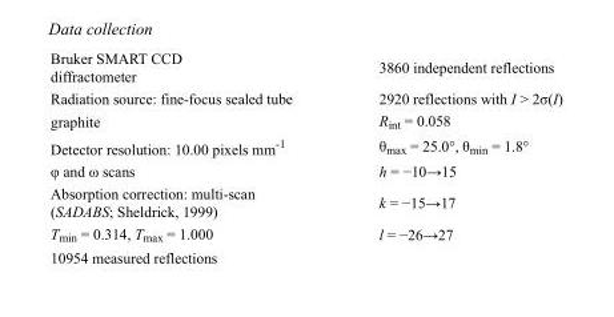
<table><tbody><tr><td>Bruker SMART CCD diffractometer</td><td>3860 independent reflections</td></tr><tr><td>Radiation source: fine-focus sealed tube</td><td>2920 reflections with I &gt; 2σ(I)</td></tr><tr><td>graphite</td><td>R<sub>int</sub> = 0.058</td></tr><tr><td>Detector resolution: 10.00 pixels mm<sup>-1</sup></td><td>θ<sub>max</sub> = 25.0°, θ<sub>min</sub> = 1.8°</td></tr><tr><td>φ and ω scans</td><td>h = −10→15</td></tr><tr><td>Absorption correction: multi-scan (SADABS; Sheldrick, 1999)</td><td>k = −15→17</td></tr><tr><td>T<sub>min</sub> = 0.314, T<sub>max</sub> = 1.000</td><td>l = −26→27</td></tr><tr><td>10954 measured reflections</td><td></td></tr></tbody></table>